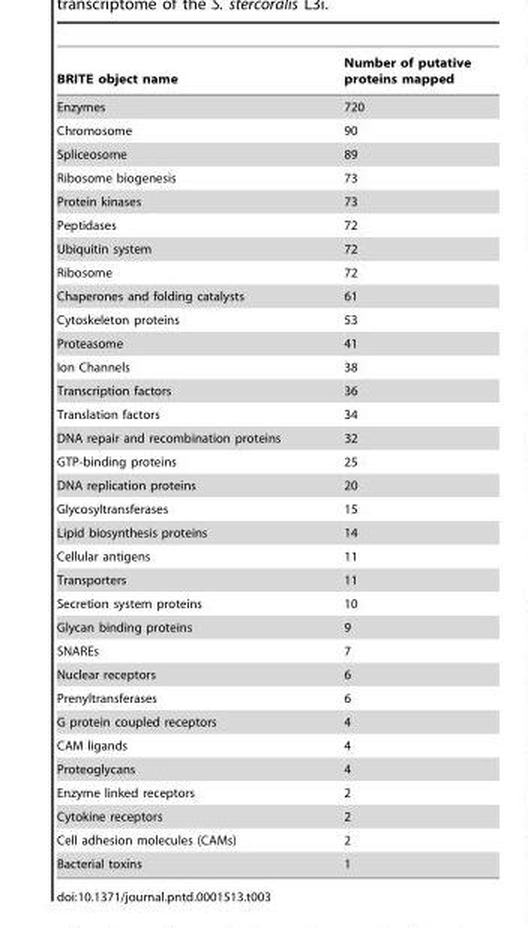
<table><thead><tr><td>BRITE object name</td><td>Number of putative proteins mapped</td></tr></thead><tbody><tr><td>Enzymes</td><td>720</td></tr><tr><td>Chromosome</td><td>90</td></tr><tr><td>Spliceosome</td><td>89</td></tr><tr><td>Ribosome biogenesis</td><td>73</td></tr><tr><td>Protein kinases</td><td>73</td></tr><tr><td>Peptidases</td><td>72</td></tr><tr><td>Ubiquitin system</td><td>72</td></tr><tr><td>Ribosome</td><td>72</td></tr><tr><td>Chaperones and folding catalysts</td><td>61</td></tr><tr><td>Cytoskeleton proteins</td><td>53</td></tr><tr><td>Proteasome</td><td>41</td></tr><tr><td>Ion Channels</td><td>38</td></tr><tr><td>Transcription factors</td><td>36</td></tr><tr><td>Translation factors</td><td>34</td></tr><tr><td>DNA repair and recombination proteins</td><td>32</td></tr><tr><td>GTP-binding proteins</td><td>25</td></tr><tr><td>DNA replication proteins</td><td>20</td></tr><tr><td>Glycosyltransferases</td><td>15</td></tr><tr><td>Lipid biosynthesis proteins</td><td>14</td></tr><tr><td>Cellular antigens</td><td>11</td></tr><tr><td>Transporters</td><td>11</td></tr><tr><td>Secretion system proteins</td><td>10</td></tr><tr><td>Glycan binding proteins</td><td>9</td></tr><tr><td>SNAREs</td><td>7</td></tr><tr><td>Nuclear receptors</td><td>6</td></tr><tr><td>Prenyltransferases</td><td>6</td></tr><tr><td>G protein coupled receptors</td><td>4</td></tr><tr><td>CAM ligands</td><td>4</td></tr><tr><td>Proteoglycans</td><td>4</td></tr><tr><td>Enzyme linked receptors</td><td>2</td></tr><tr><td>Cytokine receptors</td><td>2</td></tr><tr><td>Cell adhesion molecules (CAMs)</td><td>2</td></tr><tr><td>Bacterial toxins</td><td>1</td></tr></tbody></table>